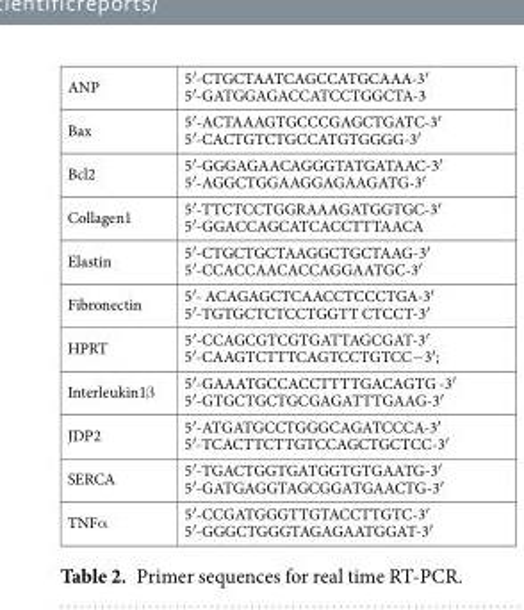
<table><tbody><tr><td>ANP</td><td>5′-CTGCTAATCAGCCATGCAAA-3′ 5′-GATGGAGACCATCCTGGCTA-3</td></tr><tr><td>Bax</td><td>5′-ACTAAAGTGCCCGAGCTGATC-3′ 5′-CACTGTCTGCCATGTGGGG-3′</td></tr><tr><td>Bcl2</td><td>5′-GGGAGAACAGGGTATGATAAC-3′ 5′-AGGCTGGAAGGAGAAGATG-3′</td></tr><tr><td>Collagen1</td><td>5′-TTCTCCTGGRAAAGATGGTGC-3′ 5′-GGACCAGCATCACCTTTAACA</td></tr><tr><td>Elastin</td><td>5′-CTGCTGCTAAGGCTGCTAAG-3′ 5′-CCACCAACACCAGGAATGC-3′</td></tr><tr><td>Fibronectin</td><td>5′- ACAGAGCTCAACCTCCCTGA-3′ 5′-TGTGCTCTCCTGGTT CTCCT-3′</td></tr><tr><td>HPRT</td><td>5′-CCAGCGTCGTGATTAGCGAT-3′ 5′-CAAGTCTTTCAGTCCTGTCC−3′;</td></tr><tr><td>Interleukin1β</td><td>5′-GAAATGCCACCTTTTGACAGTG -3′ 5′-GTGCTGCTGCGAGATTTGAAG-3′</td></tr><tr><td>JDP2</td><td>5′-ATGATGCCTGGGCAGATCCCA-3′ 5′-TCACTTCTTGTCCAGCTGCTCC-3′</td></tr><tr><td>SERCA</td><td>5′-TGACTGGTGATGGTGTGAATG-3′ 5′-GATGAGGTAGCGGATGAACTG-3′</td></tr><tr><td>TNFα</td><td>5′-CCGATGGGTTGTACCTTGTC-3′ 5′-GGGCTGGGTAGAGAATGGAT-3′</td></tr></tbody></table>